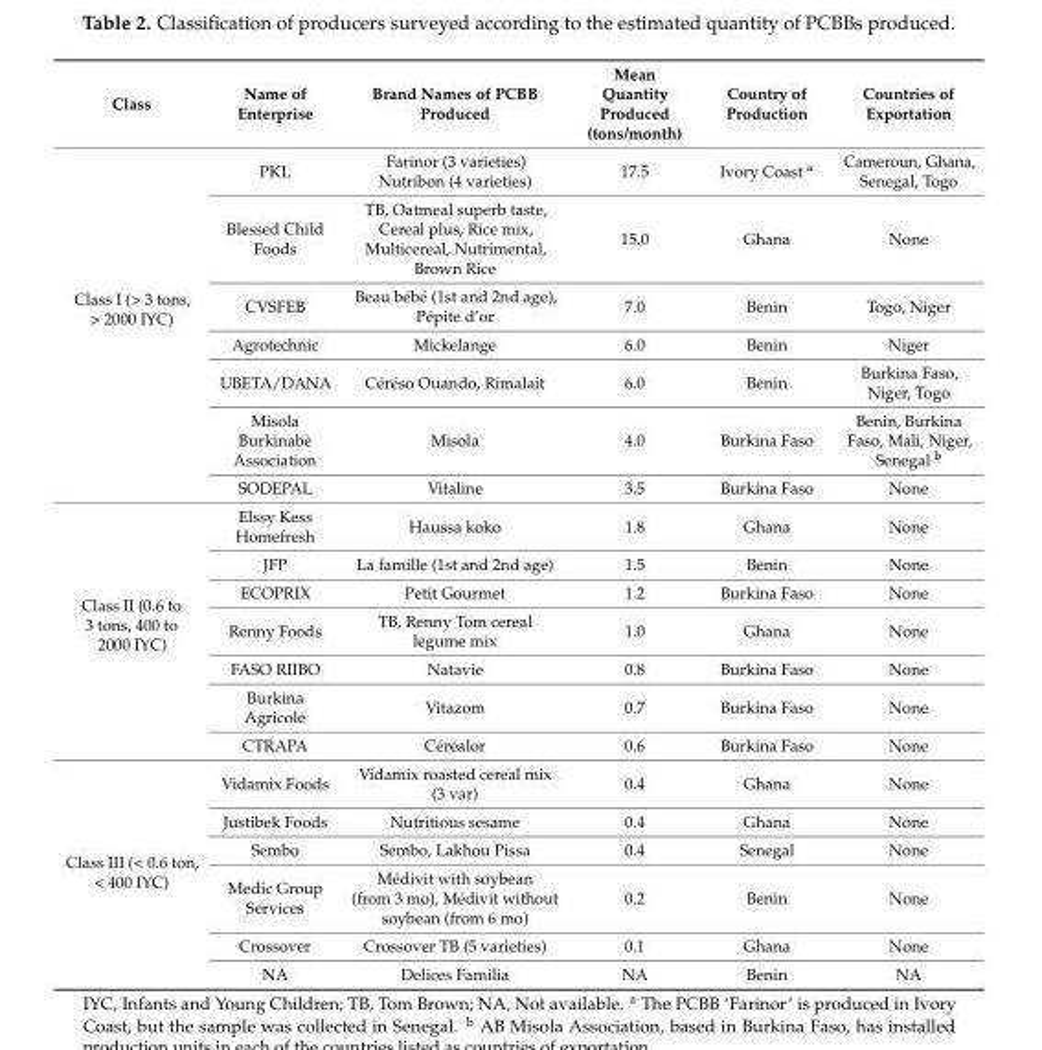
<table><thead><tr><td>Class</td><td>Name of Enterprise</td><td>Brand Names of PCBB Produced</td><td>Mean Quantity Produced (tons/month)</td><td>Country of Production</td><td>Countries of Exportation</td></tr></thead><tbody><tr><td rowspan="7">Class I (&gt; 3 tons, &gt; 2000 IYC)</td><td>PKL</td><td>Farinor (3 varieties) Nutribon (4 varieties)</td><td>17.5</td><td>Ivory Coast <sup>a</sup></td><td>Cameroun, Ghana, Senegal, Togo</td></tr><tr><td>Blessed Child Foods</td><td>TB, Oatmeal superb taste, Cereal plus, Rice mix, Multicereal, Nutrimental, Brown Rice</td><td>15.0</td><td>Ghana</td><td>None</td></tr><tr><td>CVSFEB</td><td>Beau bébé (1st and 2nd age), Pépite d’or</td><td>7.0</td><td>Benin</td><td>Togo, Niger</td></tr><tr><td>Agrotechnic</td><td>Mickelange</td><td>6.0</td><td>Benin</td><td>Niger</td></tr><tr><td>UBETA/DANA</td><td>Céréso Ouando, Rimalait</td><td>6.0</td><td>Benin</td><td>Burkina Faso, Niger, Togo</td></tr><tr><td>Misola Burkinabè Association</td><td>Misola</td><td>4.0</td><td>Burkina Faso</td><td>Benin, Burkina Faso, Mali, Niger, Senegal <sup>b</sup></td></tr><tr><td>SODEPAL</td><td>Vitaline</td><td>3.5</td><td>Burkina Faso</td><td>None</td></tr><tr><td rowspan="7">Class II (0.6 to 3 tons, 400 to 2000 IYC)</td><td>Elssy Kess Homefresh</td><td>Haussa koko</td><td>1.8</td><td>Ghana</td><td>None</td></tr><tr><td>JFP</td><td>La famille (1st and 2nd age)</td><td>1.5</td><td>Benin</td><td>None</td></tr><tr><td>ECOPRIX</td><td>Petit Gourmet</td><td>1.2</td><td>Burkina Faso</td><td>None</td></tr><tr><td>Renny Foods</td><td>TB, Renny Tom cereal legume mix</td><td>1.0</td><td>Ghana</td><td>None</td></tr><tr><td>FASO RIIBO</td><td>Natavie</td><td>0.8</td><td>Burkina Faso</td><td>None</td></tr><tr><td>Burkina Agricole</td><td>Vitazom</td><td>0.7</td><td>Burkina Faso</td><td>None</td></tr><tr><td>CTRAPA</td><td>Céréalor</td><td>0.6</td><td>Burkina Faso</td><td>None</td></tr><tr><td rowspan="6">Class III (&lt; 0.6 ton, &lt; 400 IYC)</td><td>Vidamix Foods</td><td>Vidamix roasted cereal mix (3 var)</td><td>0.4</td><td>Ghana</td><td>None</td></tr><tr><td>Justibek Foods</td><td>Nutritious sesame</td><td>0.4</td><td>Ghana</td><td>None</td></tr><tr><td>Sembo</td><td>Sembo, Lakhou Pissa</td><td>0.4</td><td>Senegal</td><td>None</td></tr><tr><td>Medic Group Services</td><td>Médivit with soybean (from 3 mo), Médivit without soybean (from 6 mo)</td><td>0.2</td><td>Benin</td><td>None</td></tr><tr><td>Crossover</td><td>Crossover TB (5 varieties)</td><td>0.1</td><td>Ghana</td><td>None</td></tr><tr><td>NA</td><td>Delices Familia</td><td>NA</td><td>Benin</td><td>NA</td></tr></tbody></table>